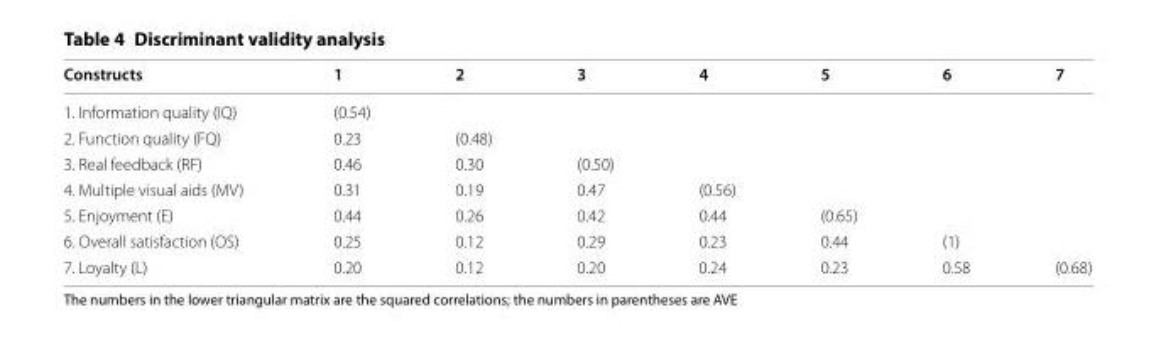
<table><thead><tr><td>Constructs</td><td>1</td><td>2</td><td>3</td><td>4</td><td>5</td><td>6</td><td>7</td></tr></thead><tbody><tr><td>1. Information quality (IQ)</td><td>(0.54)</td><td></td><td></td><td></td><td></td><td></td><td></td></tr><tr><td>2. Function quality (FQ)</td><td>0.23</td><td>(0.48)</td><td></td><td></td><td></td><td></td><td></td></tr><tr><td>3. Real feedback (RF)</td><td>0.46</td><td>0.30</td><td>(0.50)</td><td></td><td></td><td></td><td></td></tr><tr><td>4. Multiple visual aids (MV)</td><td>0.31</td><td>0.19</td><td>0.47</td><td>(0.56)</td><td></td><td></td><td></td></tr><tr><td>5. Enjoyment (E)</td><td>0.44</td><td>0.26</td><td>0.42</td><td>0.44</td><td>(0.65)</td><td></td><td></td></tr><tr><td>6. Overall satisfaction (OS)</td><td>0.25</td><td>0.12</td><td>0.29</td><td>0.23</td><td>0.44</td><td>(1)</td><td></td></tr><tr><td>7. Loyalty (L)</td><td>0.20</td><td>0.12</td><td>0.20</td><td>0.24</td><td>0.23</td><td>0.58</td><td>(0.68)</td></tr></tbody></table>